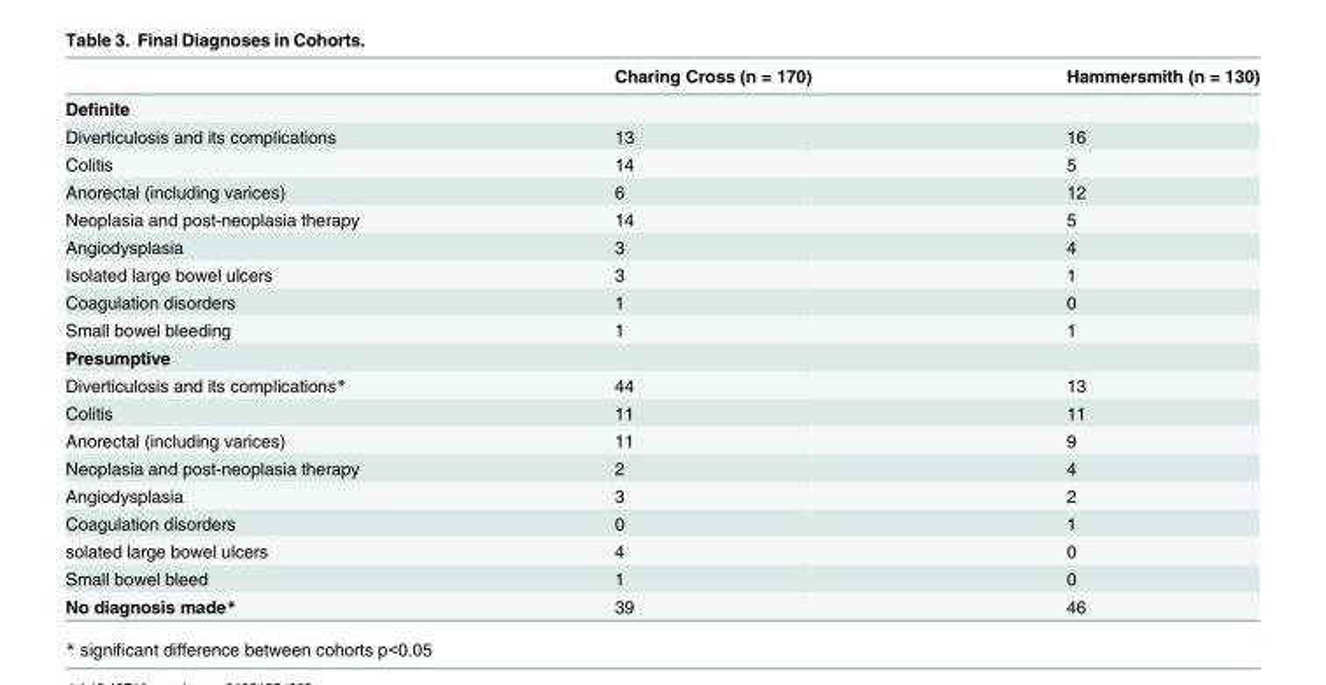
<table><thead><tr><td></td><td>Charing Cross (n = 170)</td><td>Hammersmith (n = 130)</td></tr></thead><tbody><tr><td colspan="3">Definite</td></tr><tr><td>Diverticulosis and its complications</td><td>13</td><td>16</td></tr><tr><td>Colitis</td><td>14</td><td>5</td></tr><tr><td>Anorectal (including varices)</td><td>6</td><td>12</td></tr><tr><td>Neoplasia and post-neoplasia therapy</td><td>14</td><td>5</td></tr><tr><td>Angiodysplasia</td><td>3</td><td>4</td></tr><tr><td>Isolated large bowel ulcers</td><td>3</td><td>1</td></tr><tr><td>Coagulation disorders</td><td>1</td><td>0</td></tr><tr><td>Small bowel bleeding</td><td>1</td><td>1</td></tr><tr><td colspan="3">Presumptive</td></tr><tr><td>Diverticulosis and its complications*</td><td>44</td><td>13</td></tr><tr><td>Colitis</td><td>11</td><td>11</td></tr><tr><td>Anorectal (including varices)</td><td>11</td><td>9</td></tr><tr><td>Neoplasia and post-neoplasia therapy</td><td>2</td><td>4</td></tr><tr><td>Angiodysplasia</td><td>3</td><td>2</td></tr><tr><td>Coagulation disorders</td><td>0</td><td>1</td></tr><tr><td>solated large bowel ulcers</td><td>4</td><td>0</td></tr><tr><td>Small bowel bleed</td><td>1</td><td>0</td></tr><tr><td>No diagnosis made*</td><td>39</td><td>46</td></tr></tbody></table>